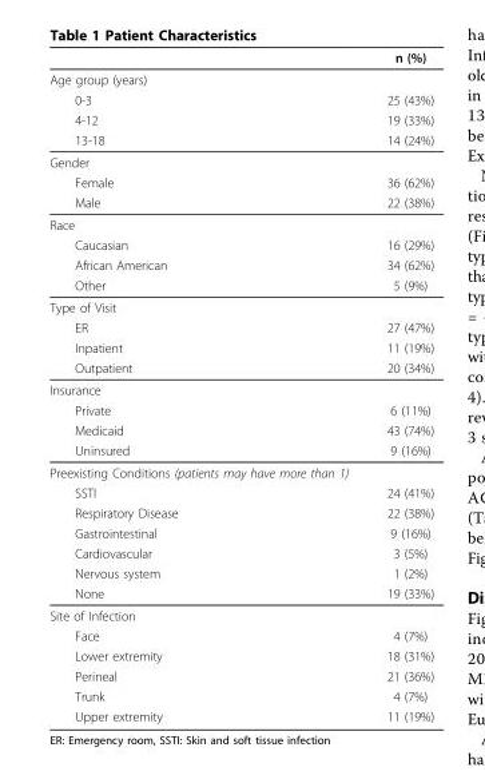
<table><thead><tr><td></td><td>n (%)</td></tr></thead><tbody><tr><td colspan="2">Age group (years)</td></tr><tr><td>0-3</td><td>25 (43%)</td></tr><tr><td>4-12</td><td>19 (33%)</td></tr><tr><td>13-18</td><td>14 (24%)</td></tr><tr><td colspan="2">Gender</td></tr><tr><td>Female</td><td>36 (62%)</td></tr><tr><td>Male</td><td>22 (38%)</td></tr><tr><td colspan="2">Race</td></tr><tr><td>Caucasian</td><td>16 (29%)</td></tr><tr><td>African American</td><td>34 (62%)</td></tr><tr><td>Other</td><td>5 (9%)</td></tr><tr><td colspan="2">Type of Visit</td></tr><tr><td>ER</td><td>27 (47%)</td></tr><tr><td>Inpatient</td><td>11 (19%)</td></tr><tr><td>Outpatient</td><td>20 (34%)</td></tr><tr><td colspan="2">Insurance</td></tr><tr><td>Private</td><td>6 (11%)</td></tr><tr><td>Medicaid</td><td>43 (74%)</td></tr><tr><td>Uninsured</td><td>9 (16%)</td></tr><tr><td colspan="2">Preexisting Conditions (patients may have more than 1)</td></tr><tr><td>SSTI</td><td>24 (41%)</td></tr><tr><td>Respiratory Disease</td><td>22 (38%)</td></tr><tr><td>Gastrointestinal</td><td>9 (16%)</td></tr><tr><td>Cardiovascular</td><td>3 (5%)</td></tr><tr><td>Nervous system</td><td>1 (2%)</td></tr><tr><td>None</td><td>19 (33%)</td></tr><tr><td colspan="2">Site of Infection</td></tr><tr><td>Face</td><td>4 (7%)</td></tr><tr><td>Lower extremity</td><td>18 (31%)</td></tr><tr><td>Perineal</td><td>21 (36%)</td></tr><tr><td>Trunk</td><td>4 (7%)</td></tr><tr><td>Upper extremity</td><td>11 (19%)</td></tr></tbody></table>